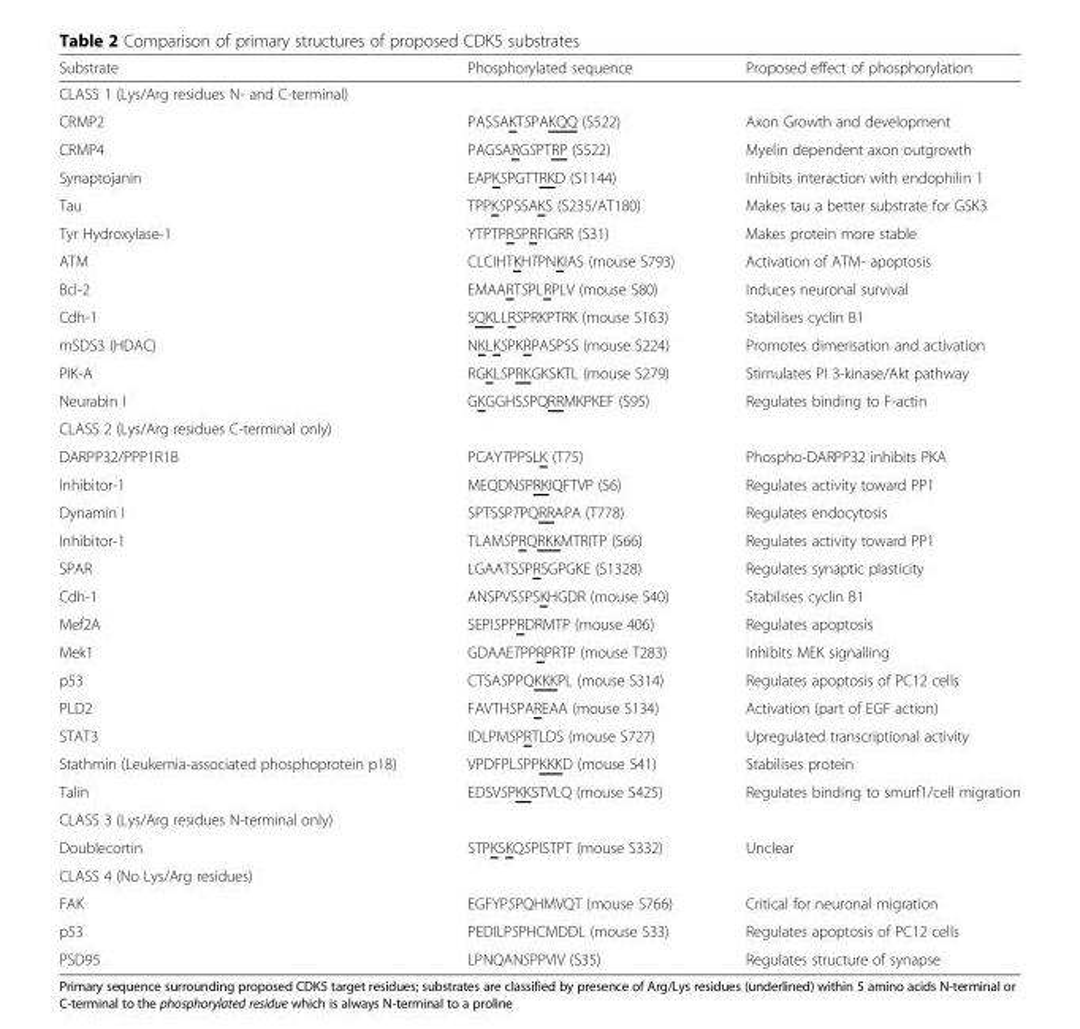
<table><thead><tr><td>Substrate</td><td>Phosphorylated sequence</td><td>Proposed effect of phosphorylation</td></tr></thead><tbody><tr><td colspan="3">CLASS 1 (Lys/Arg residues N- and C-terminal)</td></tr><tr><td>CRMP2</td><td>PASSAKTSPAKQQ (S522)</td><td>Axon Growth and development</td></tr><tr><td>CRMP4</td><td>PAGSARGSPTRP (S522)</td><td>Myelin dependent axon outgrowth</td></tr><tr><td>Synaptojanin</td><td>EAPKSPGTTRKD (S1144)</td><td>Inhibits interaction with endophilin 1</td></tr><tr><td>Tau</td><td>TPPKSPSSAKS (S235/AT180)</td><td>Makes tau a better substrate for GSK3</td></tr><tr><td>Tyr Hydroxylase-1</td><td>YTPTPRSPRFIGRR (S31)</td><td>Makes protein more stable</td></tr><tr><td>ATM</td><td>CLCIHTKHTPNKIAS (mouse S793)</td><td>Activation of ATM- apoptosis</td></tr><tr><td>Bcl-2</td><td>EMAARTSPLRPLV (mouse S80)</td><td>Induces neuronal survival</td></tr><tr><td>Cdh-1</td><td>SQKLLRSPRKPTRK (mouse S163)</td><td>Stabilises cyclin B1</td></tr><tr><td>mSDS3 (HDAC)</td><td>NKLKSPKRPASPSS (mouse S224)</td><td>Promotes dimerisation and activation</td></tr><tr><td>PIK-A</td><td>RGKLSPRKGKSKTL (mouse S279)</td><td>Stimulates PI 3-kinase/Akt pathway</td></tr><tr><td>Neurabin I</td><td>GKGGHSSPQRRMKPKEF (S95)</td><td>Regulates binding to F-actin</td></tr><tr><td colspan="3">CLASS 2 (Lys/Arg residues C-terminal only)</td></tr><tr><td>DARPP32/PPP1R1B</td><td>PCAYTPPSLK (T75)</td><td>Phospho-DARPP32 inhibits PKA</td></tr><tr><td>Inhibitor-1</td><td>MEQDNSPRKIQFTVP (S6)</td><td>Regulates activity toward PP1</td></tr><tr><td>Dynamin I</td><td>SPTSSPTPQRRAPA (T778)</td><td>Regulates endocytosis</td></tr><tr><td>Inhibitor-1</td><td>TLAMSPRQRKKMTRITP (S66)</td><td>Regulates activity toward PP1</td></tr><tr><td>SPAR</td><td>LGAATSSPRSGPGKE (S1328)</td><td>Regulates synaptic plasticity</td></tr><tr><td>Cdh-1</td><td>ANSPVSSPSKHGDR (mouse S40)</td><td>Stabilises cyclin B1</td></tr><tr><td>Mef2A</td><td>SEPISPPRDRMTP (mouse 406)</td><td>Regulates apoptosis</td></tr><tr><td>Mek1</td><td>GDAAETPPRPRTP (mouse T283)</td><td>Inhibits MEK signalling</td></tr><tr><td>p53</td><td>CTSASPPQKKKPL (mouse S314)</td><td>Regulates apoptosis of PC12 cells</td></tr><tr><td>PLD2</td><td>FAVTHSPAREAA (mouse S134)</td><td>Activation (part of EGF action)</td></tr><tr><td>STAT3</td><td>IDLPMSPRTLDS (mouse S727)</td><td>Upregulated transcriptional activity</td></tr><tr><td>Stathmin (Leukemia-associated phosphoprotein p18)</td><td>VPDFPLSPPKKKD (mouse S41)</td><td>Stabilises protein</td></tr><tr><td>Talin</td><td>EDSVSPKKSTVLQ (mouse S425)</td><td>Regulates binding to smurf1/cell migration</td></tr><tr><td colspan="3">CLASS 3 (Lys/Arg residues N-terminal only)</td></tr><tr><td>Doublecortin</td><td>STPKSKQSPISTPT (mouse S332)</td><td>Unclear</td></tr><tr><td colspan="3">CLASS 4 (No Lys/Arg residues)</td></tr><tr><td>FAK</td><td>EGFYPSPQHMVQT (mouse S766)</td><td>Critical for neuronal migration</td></tr><tr><td>p53</td><td>PEDILPSPHCMDDL (mouse S33)</td><td>Regulates apoptosis of PC12 cells</td></tr><tr><td>PSD95</td><td>LPNQANSPPVIV (S35)</td><td>Regulates structure of synapse</td></tr></tbody></table>